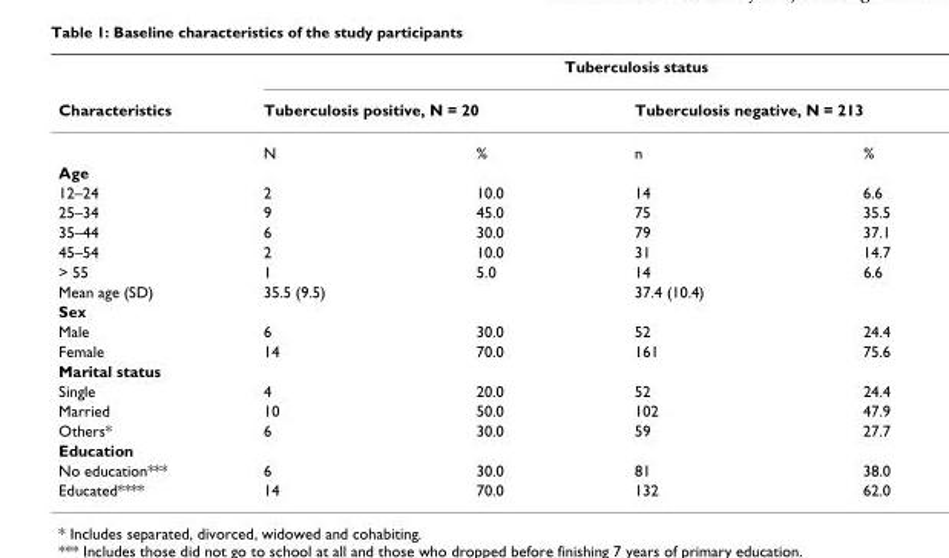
<table><thead><tr><td rowspan="3">Characteristics</td><td colspan="4">Tuberculosis status</td></tr><tr><td colspan="2">Tuberculosis positive, N = 20</td><td colspan="2">Tuberculosis negative, N = 213</td></tr><tr><td>N</td><td>%</td><td>n</td><td>%</td></tr></thead><tbody><tr><td colspan="5">Age</td></tr><tr><td>12–24</td><td>2</td><td>10.0</td><td>14</td><td>6.6</td></tr><tr><td>25–34</td><td>9</td><td>45.0</td><td>75</td><td>35.5</td></tr><tr><td>35–44</td><td>6</td><td>30.0</td><td>79</td><td>37.1</td></tr><tr><td>45–54</td><td>2</td><td>10.0</td><td>31</td><td>14.7</td></tr><tr><td>&gt; 55</td><td>1</td><td>5.0</td><td>14</td><td>6.6</td></tr><tr><td>Mean age (SD)</td><td>35.5 (9.5)</td><td></td><td>37.4 (10.4)</td><td></td></tr><tr><td colspan="5">Sex</td></tr><tr><td>Male</td><td>6</td><td>30.0</td><td>52</td><td>24.4</td></tr><tr><td>Female</td><td>14</td><td>70.0</td><td>161</td><td>75.6</td></tr><tr><td colspan="5">Marital status</td></tr><tr><td>Single</td><td>4</td><td>20.0</td><td>52</td><td>24.4</td></tr><tr><td>Married</td><td>10</td><td>50.0</td><td>102</td><td>47.9</td></tr><tr><td>Others*</td><td>6</td><td>30.0</td><td>59</td><td>27.7</td></tr><tr><td colspan="5">Education</td></tr><tr><td>No education***</td><td>6</td><td>30.0</td><td>81</td><td>38.0</td></tr><tr><td>Educated****</td><td>14</td><td>70.0</td><td>132</td><td>62.0</td></tr></tbody></table>